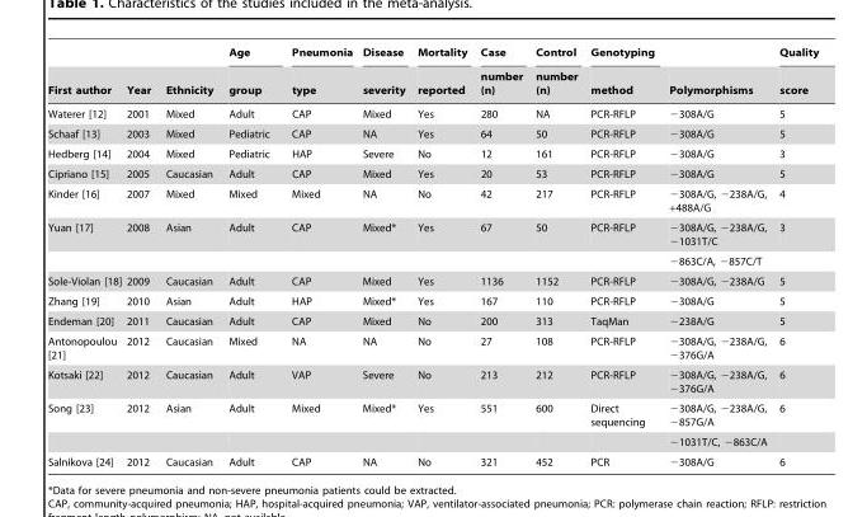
<table><thead><tr><td rowspan="2">First author</td><td rowspan="2">Year</td><td rowspan="2">Ethnicity</td><td rowspan="2">Age group</td><td rowspan="2">Pneumonia type</td><td rowspan="2">Disease severity</td><td rowspan="2">Mortality reported</td><td rowspan="2">Case number (n)</td><td rowspan="2">Control number (n)</td><td rowspan="2">Genotyping method</td><td rowspan="2">Polymorphisms</td><td rowspan="2">Quality score</td></tr><tr></tr></thead><tbody><tr><td>Waterer [12]</td><td>2001</td><td>Mixed</td><td>Adult</td><td>CAP</td><td>Mixed</td><td>Yes</td><td>280</td><td>NA</td><td>PCR-RFLP</td><td>−308A/G</td><td>5</td></tr><tr><td>Schaaf [13]</td><td>2003</td><td>Mixed</td><td>Pediatric</td><td>CAP</td><td>NA</td><td>Yes</td><td>64</td><td>50</td><td>PCR-RFLP</td><td>−308A/G</td><td>5</td></tr><tr><td>Hedberg [14]</td><td>2004</td><td>Mixed</td><td>Pediatric</td><td>HAP</td><td>Severe</td><td>No</td><td>12</td><td>161</td><td>PCR-RFLP</td><td>−308A/G</td><td>3</td></tr><tr><td>Cipriano [15]</td><td>2005</td><td>Caucasian</td><td>Adult</td><td>CAP</td><td>Mixed</td><td>Yes</td><td>20</td><td>53</td><td>PCR-RFLP</td><td>−308A/G</td><td>5</td></tr><tr><td>Kinder [16]</td><td>2007</td><td>Mixed</td><td>Mixed</td><td>Mixed</td><td>NA</td><td>No</td><td>42</td><td>217</td><td>PCR-RFLP</td><td>−308A/G, −238A/G, +488A/G</td><td>4</td></tr><tr><td rowspan="2">Yuan [17]</td><td>2008</td><td>Asian</td><td>Adult</td><td>CAP</td><td>Mixed*</td><td>Yes</td><td>67</td><td>50</td><td>PCR-RFLP</td><td>−308A/G, −238A/G, −1031T/C</td><td>3</td></tr><tr><td></td><td></td><td></td><td></td><td></td><td></td><td></td><td></td><td></td><td>−863C/A, −857C/T</td><td></td></tr><tr><td>Sole-Violan [18]</td><td>2009</td><td>Caucasian</td><td>Adult</td><td>CAP</td><td>Mixed</td><td>Yes</td><td>1136</td><td>1152</td><td>PCR-RFLP</td><td>−308A/G, −238A/G</td><td>5</td></tr><tr><td>Zhang [19]</td><td>2010</td><td>Asian</td><td>Adult</td><td>HAP</td><td>Mixed*</td><td>Yes</td><td>167</td><td>110</td><td>PCR-RFLP</td><td>−308A/G</td><td>5</td></tr><tr><td>Endeman [20]</td><td>2011</td><td>Caucasian</td><td>Adult</td><td>CAP</td><td>Mixed</td><td>No</td><td>200</td><td>313</td><td>TaqMan</td><td>−238A/G</td><td>5</td></tr><tr><td>Antonopoulou [21]</td><td>2012</td><td>Caucasian</td><td>Mixed</td><td>NA</td><td>NA</td><td>No</td><td>27</td><td>108</td><td>PCR-RFLP</td><td>−308A/G, −238A/G, −376G/A</td><td>6</td></tr><tr><td>Kotsaki [22]</td><td>2012</td><td>Caucasian</td><td>Adult</td><td>VAP</td><td>Severe</td><td>No</td><td>213</td><td>212</td><td>PCR-RFLP</td><td>−308A/G, −238A/G, −376G/A</td><td>6</td></tr><tr><td rowspan="2">Song [23]</td><td>2012</td><td>Asian</td><td>Adult</td><td>Mixed</td><td>Mixed*</td><td>Yes</td><td>551</td><td>600</td><td>Direct sequencing</td><td>−308A/G, −238A/G, −857G/A</td><td>6</td></tr><tr><td></td><td></td><td></td><td></td><td></td><td></td><td></td><td></td><td></td><td>−1031T/C, −863C/A</td><td></td></tr><tr><td>Salnikova [24]</td><td>2012</td><td>Caucasian</td><td>Adult</td><td>CAP</td><td>NA</td><td>No</td><td>321</td><td>452</td><td>PCR</td><td>−308A/G</td><td>6</td></tr></tbody></table>